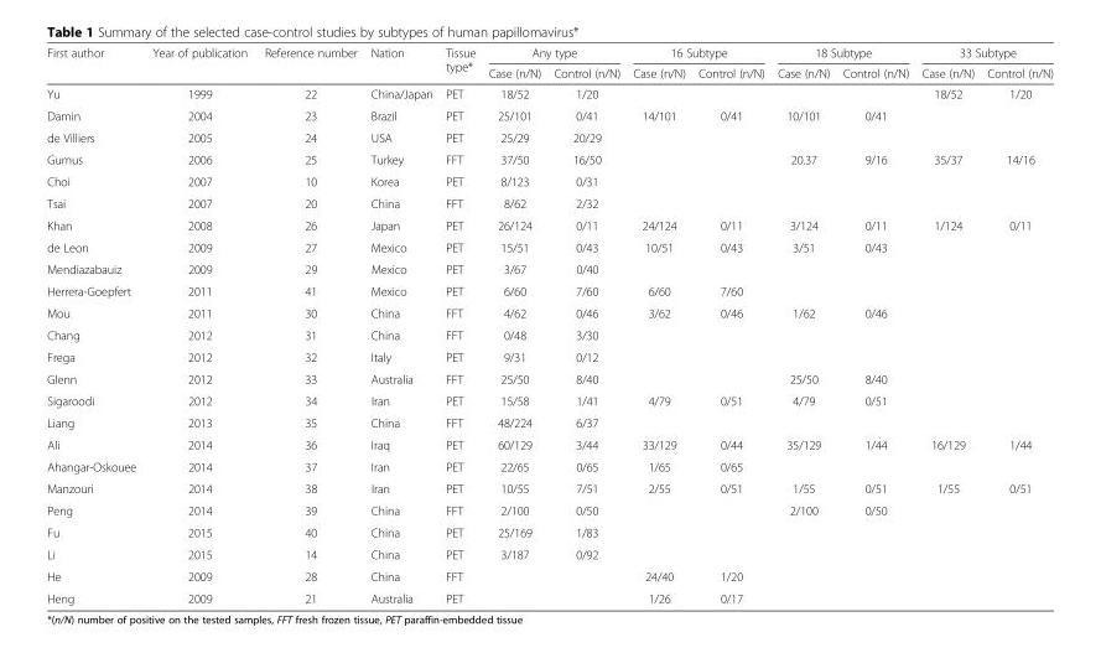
<table><thead><tr><td rowspan="2">First author</td><td rowspan="2">Year of publication</td><td rowspan="2">Reference number</td><td rowspan="2">Nation</td><td rowspan="2">Tissue type*</td><td colspan="2">Any type</td><td colspan="2">16 Subtype</td><td colspan="2">18 Subtype</td><td colspan="2">33 Subtype</td></tr><tr><td>Case (n/N)</td><td>Control (n/N)</td><td>Case (n/N)</td><td>Control (n/N)</td><td>Case (n/N)</td><td>Control (n/N)</td><td>Case (n/N)</td><td>Control (n/N)</td></tr></thead><tbody><tr><td>Yu</td><td>1999</td><td>22</td><td>China/Japan</td><td>PET</td><td>18/52</td><td>1/20</td><td></td><td></td><td></td><td></td><td>18/52</td><td>1/20</td></tr><tr><td>Damin</td><td>2004</td><td>23</td><td>Brazil</td><td>PET</td><td>25/101</td><td>0/41</td><td>14/101</td><td>0/41</td><td>10/101</td><td>0/41</td><td></td><td></td></tr><tr><td>de Villiers</td><td>2005</td><td>24</td><td>USA</td><td>PET</td><td>25/29</td><td>20/29</td><td></td><td></td><td></td><td></td><td></td><td></td></tr><tr><td>Gumus</td><td>2006</td><td>25</td><td>Turkey</td><td>FFT</td><td>37/50</td><td>16/50</td><td></td><td></td><td>20.37</td><td>9/16</td><td>35/37</td><td>14/16</td></tr><tr><td>Choi</td><td>2007</td><td>10</td><td>Korea</td><td>PET</td><td>8/123</td><td>0/31</td><td></td><td></td><td></td><td></td><td></td><td></td></tr><tr><td>Tsai</td><td>2007</td><td>20</td><td>China</td><td>FFT</td><td>8/62</td><td>2/32</td><td></td><td></td><td></td><td></td><td></td><td></td></tr><tr><td>Khan</td><td>2008</td><td>26</td><td>Japan</td><td>PET</td><td>26/124</td><td>0/11</td><td>24/124</td><td>0/11</td><td>3/124</td><td>0/11</td><td>1/124</td><td>0/11</td></tr><tr><td>de Leon</td><td>2009</td><td>27</td><td>Mexico</td><td>PET</td><td>15/51</td><td>0/43</td><td>10/51</td><td>0/43</td><td>3/51</td><td>0/43</td><td></td><td></td></tr><tr><td>Mendiazabauiz</td><td>2009</td><td>29</td><td>Mexico</td><td>PET</td><td>3/67</td><td>0/40</td><td></td><td></td><td></td><td></td><td></td><td></td></tr><tr><td>Herrera-Goepfert</td><td>2011</td><td>41</td><td>Mexico</td><td>PET</td><td>6/60</td><td>7/60</td><td>6/60</td><td>7/60</td><td></td><td></td><td></td><td></td></tr><tr><td>Mou</td><td>2011</td><td>30</td><td>China</td><td>FFT</td><td>4/62</td><td>0/46</td><td>3/62</td><td>0/46</td><td>1/62</td><td>0/46</td><td></td><td></td></tr><tr><td>Chang</td><td>2012</td><td>31</td><td>China</td><td>FFT</td><td>0/48</td><td>3/30</td><td></td><td></td><td></td><td></td><td></td><td></td></tr><tr><td>Frega</td><td>2012</td><td>32</td><td>Italy</td><td>PET</td><td>9/31</td><td>0/12</td><td></td><td></td><td></td><td></td><td></td><td></td></tr><tr><td>Glenn</td><td>2012</td><td>33</td><td>Australia</td><td>FFT</td><td>25/50</td><td>8/40</td><td></td><td></td><td>25/50</td><td>8/40</td><td></td><td></td></tr><tr><td>Sigaroodi</td><td>2012</td><td>34</td><td>Iran</td><td>PET</td><td>15/58</td><td>1/41</td><td>4/79</td><td>0/51</td><td>4/79</td><td>0/51</td><td></td><td></td></tr><tr><td>Liang</td><td>2013</td><td>35</td><td>China</td><td>FFT</td><td>48/224</td><td>6/37</td><td></td><td></td><td></td><td></td><td></td><td></td></tr><tr><td>Ali</td><td>2014</td><td>36</td><td>Iraq</td><td>PET</td><td>60/129</td><td>3/44</td><td>33/129</td><td>0/44</td><td>35/129</td><td>1/44</td><td>16/129</td><td>1/44</td></tr><tr><td>Ahangar-Oskouee</td><td>2014</td><td>37</td><td>Iran</td><td>PET</td><td>22/65</td><td>0/65</td><td>1/65</td><td>0/65</td><td></td><td></td><td></td><td></td></tr><tr><td>Manzouri</td><td>2014</td><td>38</td><td>Iran</td><td>PET</td><td>10/55</td><td>7/51</td><td>2/55</td><td>0/51</td><td>1/55</td><td>0/51</td><td>1/55</td><td>0/51</td></tr><tr><td>Peng</td><td>2014</td><td>39</td><td>China</td><td>FFT</td><td>2/100</td><td>0/50</td><td></td><td></td><td>2/100</td><td>0/50</td><td></td><td></td></tr><tr><td>Fu</td><td>2015</td><td>40</td><td>China</td><td>PET</td><td>25/169</td><td>1/83</td><td></td><td></td><td></td><td></td><td></td><td></td></tr><tr><td>Li</td><td>2015</td><td>14</td><td>China</td><td>PET</td><td>3/187</td><td>0/92</td><td></td><td></td><td></td><td></td><td></td><td></td></tr><tr><td>He</td><td>2009</td><td>28</td><td>China</td><td>FFT</td><td></td><td></td><td>24/40</td><td>1/20</td><td></td><td></td><td></td><td></td></tr><tr><td>Heng</td><td>2009</td><td>21</td><td>Australia</td><td>PET</td><td></td><td></td><td>1/26</td><td>0/17</td><td></td><td></td><td></td><td></td></tr></tbody></table>